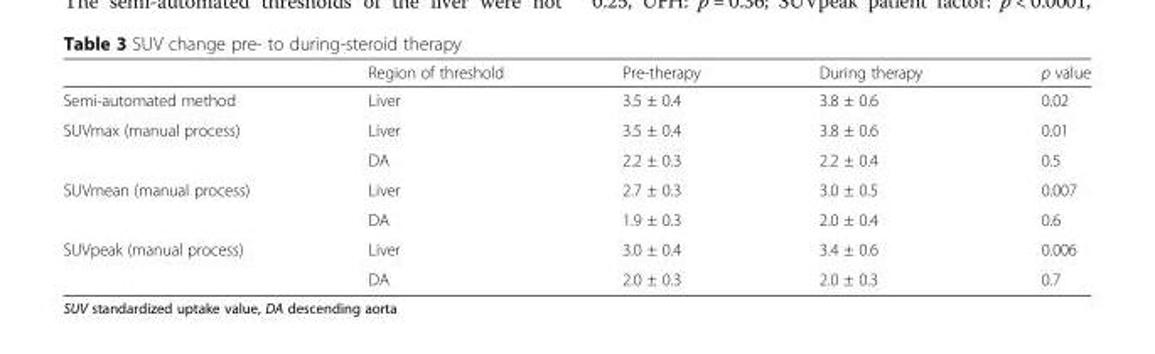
<table><thead><tr><td></td><td>Region of threshold</td><td>Pre-therapy</td><td>During therapy</td><td>p value</td></tr></thead><tbody><tr><td>Semi-automated method</td><td>Liver</td><td>3.5 ± 0.4</td><td>3.8 ± 0.6</td><td>0.02</td></tr><tr><td rowspan="2">SUVmax (manual process)</td><td>Liver</td><td>3.5 ± 0.4</td><td>3.8 ± 0.6</td><td>0.01</td></tr><tr><td>DA</td><td>2.2 ± 0.3</td><td>2.2 ± 0.4</td><td>0.5</td></tr><tr><td rowspan="2">SUVmean (manual process)</td><td>Liver</td><td>2.7 ± 0.3</td><td>3.0 ± 0.5</td><td>0.007</td></tr><tr><td>DA</td><td>1.9 ± 0.3</td><td>2.0 ± 0.4</td><td>0.6</td></tr><tr><td rowspan="2">SUVpeak (manual process)</td><td>Liver</td><td>3.0 ± 0.4</td><td>3.4 ± 0.6</td><td>0.006</td></tr><tr><td>DA</td><td>2.0 ± 0.3</td><td>2.0 ± 0.3</td><td>0.7</td></tr></tbody></table>